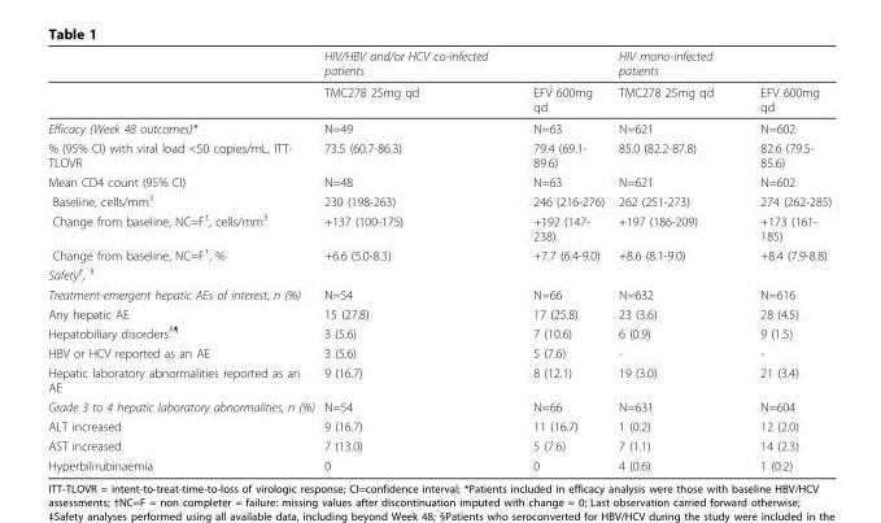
<table><thead><tr><td></td><td>HIV/HBV and/or HCV co-infected patients</td><td></td><td>HIV mono-infected patients</td><td></td></tr></thead><tbody><tr><td></td><td>TMC278 25mg qd</td><td>EFV 600mg qd</td><td>TMC278 25mg qd</td><td>EFV 600mg qd</td></tr><tr><td>Efficacy (Week 48 outcomes)*</td><td>N=49</td><td>N=63</td><td>N=621</td><td>N=602</td></tr><tr><td>% (95% CI) with viral load &lt;50 copies/mL, ITT- TLOVR</td><td>73.5 (60.7-86.3)</td><td>79.4 (69.1- 89.6)</td><td>85.0 (82.2-87.8)</td><td>82.6 (79.5- 85.6)</td></tr><tr><td>Mean CD4 count (95% CI)</td><td>N=48</td><td>N=63</td><td>N=621</td><td>N=602</td></tr><tr><td>Baseline, cells/mm<sup>3</sup></td><td>230 (198-263)</td><td>246 (216-276)</td><td>262 (251-273)</td><td>274 (262-285)</td></tr><tr><td>Change from baseline, NC=F<sup>†</sup>, cells/mm<sup>3</sup></td><td>+137 (100-175)</td><td>+192 (147- 238)</td><td>+197 (186-209)</td><td>+173 (161- 185)</td></tr><tr><td>Change from baseline, NC=F<sup>†</sup>, %</td><td>+6.6 (5.0-8.3)</td><td>+7.7 (6.4-9.0)</td><td>+8.6 (8.1-9.0)</td><td>+8.4 (7.9-8.8)</td></tr><tr><td colspan="5">Safety<sup>‡</sup>, <sup>§</sup></td></tr><tr><td>Treatment-emergent hepatic AEs of interest, n (%)</td><td>N=54</td><td>N=66</td><td>N=632</td><td>N=616</td></tr><tr><td>Any hepatic AE</td><td>15 (27.8)</td><td>17 (25.8)</td><td>23 (3.6)</td><td>28 (4.5)</td></tr><tr><td>Hepatobiliary disorders<sup>Â¶</sup></td><td>3 (5.6)</td><td>7 (10.6)</td><td>6 (0.9)</td><td>9 (1.5)</td></tr><tr><td>HBV or HCV reported as an AE</td><td>3 (5.6)</td><td>5 (7.6)</td><td>-</td><td>-</td></tr><tr><td>Hepatic laboratory abnormalities reported as an AE</td><td>9 (16.7)</td><td>8 (12.1)</td><td>19 (3.0)</td><td>21 (3.4)</td></tr><tr><td>Grade 3 to 4 hepatic laboratory abnormalities, n (%)</td><td>N=54</td><td>N=66</td><td>N=631</td><td>N=604</td></tr><tr><td>ALT increased</td><td>9 (16.7)</td><td>11 (16.7)</td><td>1 (0.2)</td><td>12 (2.0)</td></tr><tr><td>AST increased</td><td>7 (13.0)</td><td>5 (7.6)</td><td>7 (1.1)</td><td>14 (2.3)</td></tr><tr><td>Hyperbilirubinaemia</td><td>0</td><td>0</td><td>4 (0.6)</td><td>1 (0.2)</td></tr></tbody></table>